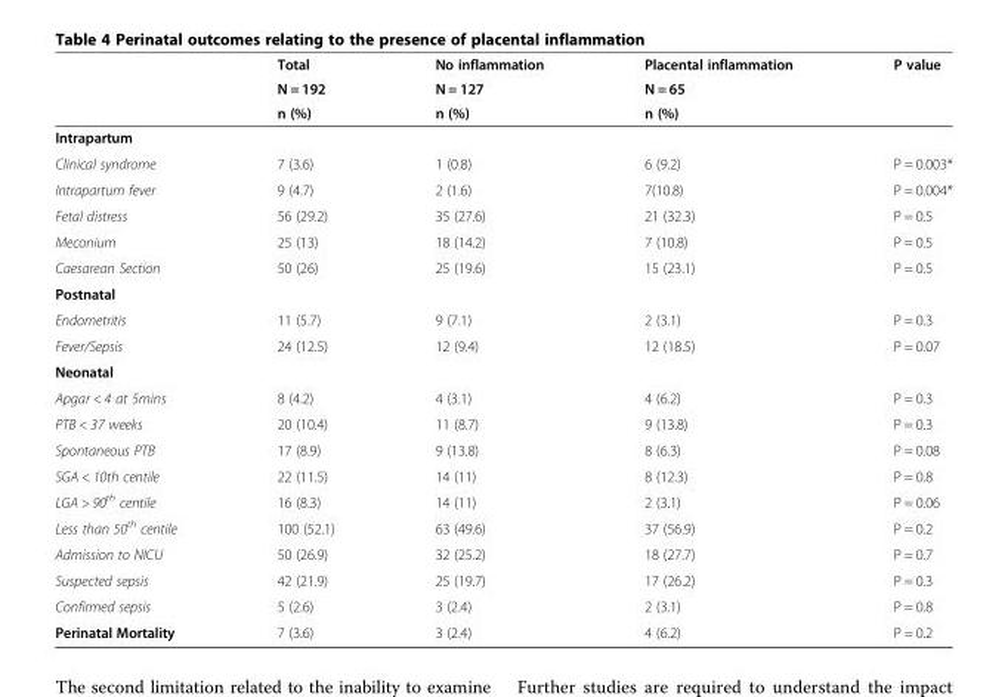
<table><thead><tr><td rowspan="3"></td><td rowspan="3">Total N = 192 n (%)</td><td rowspan="3">No inflammation N = 127 n (%)</td><td rowspan="3">Placental inflammation N = 65 n (%)</td><td rowspan="3">P value</td></tr><tr></tr><tr></tr></thead><tbody><tr><td colspan="5">Intrapartum</td></tr><tr><td>Clinical syndrome</td><td>7 (3.6)</td><td>1 (0.8)</td><td>6 (9.2)</td><td>P = 0.003*</td></tr><tr><td>Intrapartum fever</td><td>9 (4.7)</td><td>2 (1.6)</td><td>7(10.8)</td><td>P = 0.004*</td></tr><tr><td>Fetal distress</td><td>56 (29.2)</td><td>35 (27.6)</td><td>21 (32.3)</td><td>P = 0.5</td></tr><tr><td>Meconium</td><td>25 (13)</td><td>18 (14.2)</td><td>7 (10.8)</td><td>P = 0.5</td></tr><tr><td>Caesarean Section</td><td>50 (26)</td><td>25 (19.6)</td><td>15 (23.1)</td><td>P = 0.5</td></tr><tr><td colspan="5">Postnatal</td></tr><tr><td>Endometritis</td><td>11 (5.7)</td><td>9 (7.1)</td><td>2 (3.1)</td><td>P = 0.3</td></tr><tr><td>Fever/Sepsis</td><td>24 (12.5)</td><td>12 (9.4)</td><td>12 (18.5)</td><td>P = 0.07</td></tr><tr><td colspan="5">Neonatal</td></tr><tr><td>Apgar &lt; 4 at 5mins</td><td>8 (4.2)</td><td>4 (3.1)</td><td>4 (6.2)</td><td>P = 0.3</td></tr><tr><td>PTB &lt; 37 weeks</td><td>20 (10.4)</td><td>11 (8.7)</td><td>9 (13.8)</td><td>P = 0.3</td></tr><tr><td>Spontaneous PTB</td><td>17 (8.9)</td><td>9 (13.8)</td><td>8 (6.3)</td><td>P = 0.08</td></tr><tr><td>SGA &lt; 10th centile</td><td>22 (11.5)</td><td>14 (11)</td><td>8 (12.3)</td><td>P = 0.8</td></tr><tr><td>LGA &gt; 90<sup>th</sup> centile</td><td>16 (8.3)</td><td>14 (11)</td><td>2 (3.1)</td><td>P = 0.06</td></tr><tr><td>Less than 50<sup>th</sup> centile</td><td>100 (52.1)</td><td>63 (49.6)</td><td>37 (56.9)</td><td>P = 0.2</td></tr><tr><td>Admission to NICU</td><td>50 (26.9)</td><td>32 (25.2)</td><td>18 (27.7)</td><td>P = 0.7</td></tr><tr><td>Suspected sepsis</td><td>42 (21.9)</td><td>25 (19.7)</td><td>17 (26.2)</td><td>P = 0.3</td></tr><tr><td>Confirmed sepsis</td><td>5 (2.6)</td><td>3 (2.4)</td><td>2 (3.1)</td><td>P = 0.8</td></tr><tr><td>Perinatal Mortality</td><td>7 (3.6)</td><td>3 (2.4)</td><td>4 (6.2)</td><td>P = 0.2</td></tr></tbody></table>